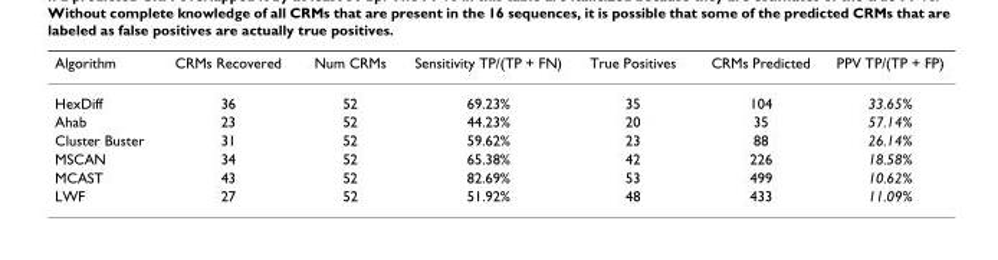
<table><thead><tr><td>Algorithm</td><td>CRMs Recovered</td><td>Num CRMs</td><td>Sensitivity TP/(TP + FN)</td><td>True Positives</td><td>CRMs Predicted</td><td>PPV TP/(TP + FP)</td></tr></thead><tbody><tr><td>HexDiff</td><td>36</td><td>52</td><td>69.23%</td><td>35</td><td>104</td><td>33.65%</td></tr><tr><td>Ahab</td><td>23</td><td>52</td><td>44.23%</td><td>20</td><td>35</td><td>57.14%</td></tr><tr><td>Cluster Buster</td><td>31</td><td>52</td><td>59.62%</td><td>23</td><td>88</td><td>26.14%</td></tr><tr><td>MSCAN</td><td>34</td><td>52</td><td>65.38%</td><td>42</td><td>226</td><td>18.58%</td></tr><tr><td>MCAST</td><td>43</td><td>52</td><td>82.69%</td><td>53</td><td>499</td><td>10.62%</td></tr><tr><td>LWF</td><td>27</td><td>52</td><td>51.92%</td><td>48</td><td>433</td><td>11.09%</td></tr></tbody></table>